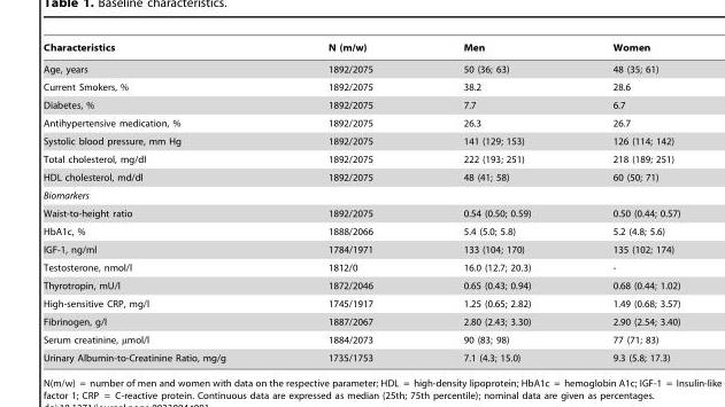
<table><thead><tr><td>Characteristics</td><td>N (m/w)</td><td>Men</td><td>Women</td></tr></thead><tbody><tr><td>Age, years</td><td>1892/2075</td><td>50 (36; 63)</td><td>48 (35; 61)</td></tr><tr><td>Current Smokers, %</td><td>1892/2075</td><td>38.2</td><td>28.6</td></tr><tr><td>Diabetes, %</td><td>1892/2075</td><td>7.7</td><td>6.7</td></tr><tr><td>Antihypertensive medication, %</td><td>1892/2075</td><td>26.3</td><td>26.7</td></tr><tr><td>Systolic blood pressure, mm Hg</td><td>1892/2075</td><td>141 (129; 153)</td><td>126 (114; 142)</td></tr><tr><td>Total cholesterol, mg/dl</td><td>1892/2075</td><td>222 (193; 251)</td><td>218 (189; 251)</td></tr><tr><td>HDL cholesterol, md/dl</td><td>1892/2075</td><td>48 (41; 58)</td><td>60 (50; 71)</td></tr><tr><td colspan="4">Biomarkers</td></tr><tr><td>Waist-to-height ratio</td><td>1892/2075</td><td>0.54 (0.50; 0.59)</td><td>0.50 (0.44; 0.57)</td></tr><tr><td>HbA1c, %</td><td>1888/2066</td><td>5.4 (5.0; 5.8)</td><td>5.2 (4.8; 5.6)</td></tr><tr><td>IGF-1, ng/ml</td><td>1784/1971</td><td>133 (104; 170)</td><td>135 (102; 174)</td></tr><tr><td>Testosterone, nmol/l</td><td>1812/0</td><td>16.0 (12.7; 20.3)</td><td>-</td></tr><tr><td>Thyrotropin, mU/l</td><td>1872/2046</td><td>0.65 (0.43; 0.94)</td><td>0.68 (0.44; 1.02)</td></tr><tr><td>High-sensitive CRP, mg/l</td><td>1745/1917</td><td>1.25 (0.65; 2.82)</td><td>1.49 (0.68; 3.57)</td></tr><tr><td>Fibrinogen, g/l</td><td>1887/2067</td><td>2.80 (2.43; 3.30)</td><td>2.90 (2.54; 3.40)</td></tr><tr><td>Serum creatinine, µmol/l</td><td>1884/2073</td><td>90 (83; 98)</td><td>77 (71; 83)</td></tr><tr><td>Urinary Albumin-to-Creatinine Ratio, mg/g</td><td>1735/1753</td><td>7.1 (4.3; 15.0)</td><td>9.3 (5.8; 17.3)</td></tr></tbody></table>